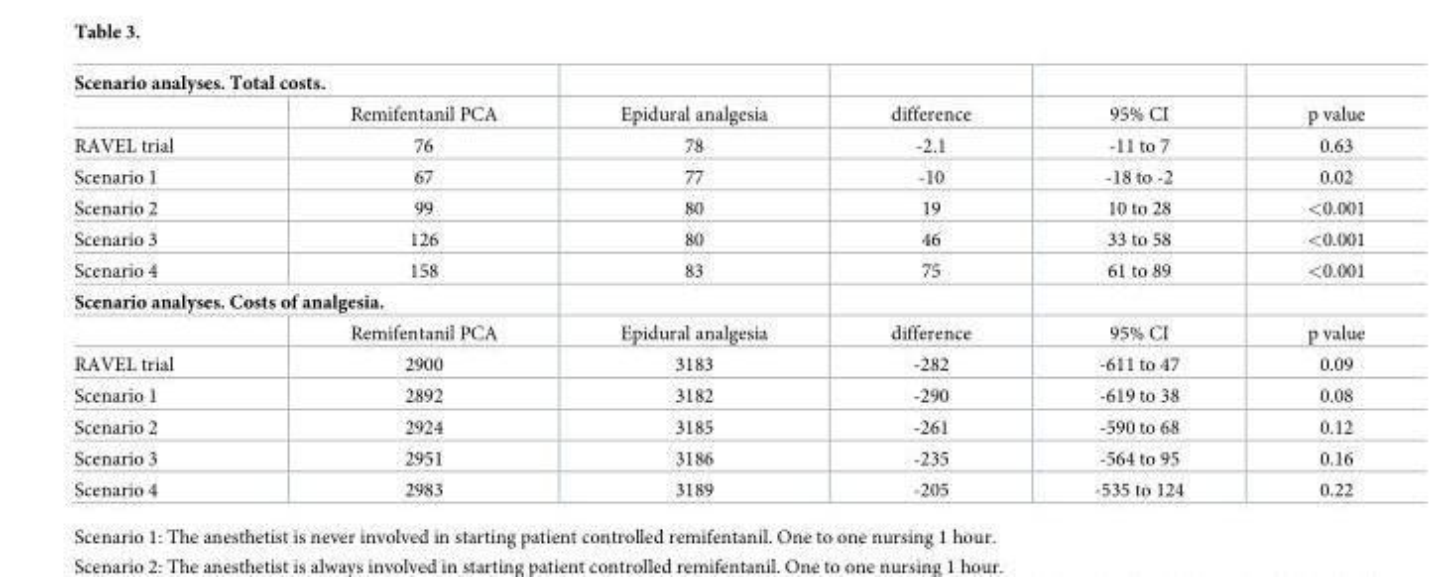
<table><tbody><tr><td colspan="6">Scenario analyses. Total costs.</td></tr><tr><td></td><td>Remifentanil PCA</td><td>Epidural analgesia</td><td>difference</td><td>95% CI</td><td>p value</td></tr><tr><td>RAVEL trial</td><td>76</td><td>78</td><td>-2.1</td><td>-11 to 7</td><td>0.63</td></tr><tr><td>Scenario 1</td><td>67</td><td>77</td><td>-10</td><td>-18 to -2</td><td>0.02</td></tr><tr><td>Scenario 2</td><td>99</td><td>80</td><td>19</td><td>10 to 28</td><td>&lt;0.001</td></tr><tr><td>Scenario 3</td><td>126</td><td>80</td><td>46</td><td>33 to 58</td><td>&lt;0.001</td></tr><tr><td>Scenario 4</td><td>158</td><td>83</td><td>75</td><td>61 to 89</td><td>&lt;0.001</td></tr><tr><td colspan="6">Scenario analyses. Costs of analgesia.</td></tr><tr><td></td><td>Remifentanil PCA</td><td>Epidural analgesia</td><td>difference</td><td>95% CI</td><td>p value</td></tr><tr><td>RAVEL trial</td><td>2900</td><td>3183</td><td>-282</td><td>-611 to 47</td><td>0.09</td></tr><tr><td>Scenario 1</td><td>2892</td><td>3182</td><td>-290</td><td>-619 to 38</td><td>0.08</td></tr><tr><td>Scenario 2</td><td>2924</td><td>3185</td><td>-261</td><td>-590 to 68</td><td>0.12</td></tr><tr><td>Scenario 3</td><td>2951</td><td>3186</td><td>-235</td><td>-564 to 95</td><td>0.16</td></tr><tr><td>Scenario 4</td><td>2983</td><td>3189</td><td>-205</td><td>-535 to 124</td><td>0.22</td></tr></tbody></table>